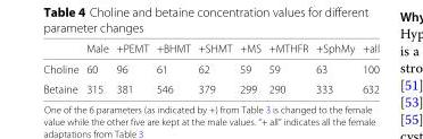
<table><thead><tr><td></td><td>Male</td><td>+PEMT</td><td>+BHMT</td><td>+SHMT</td><td>+MS</td><td>+MTHFR</td><td>+SphMy</td><td>+all</td></tr></thead><tbody><tr><td>Choline</td><td>60</td><td>96</td><td>61</td><td>62</td><td>59</td><td>59</td><td>63</td><td>100</td></tr><tr><td>Betaine</td><td>315</td><td>381</td><td>546</td><td>379</td><td>299</td><td>290</td><td>333</td><td>632</td></tr></tbody></table>